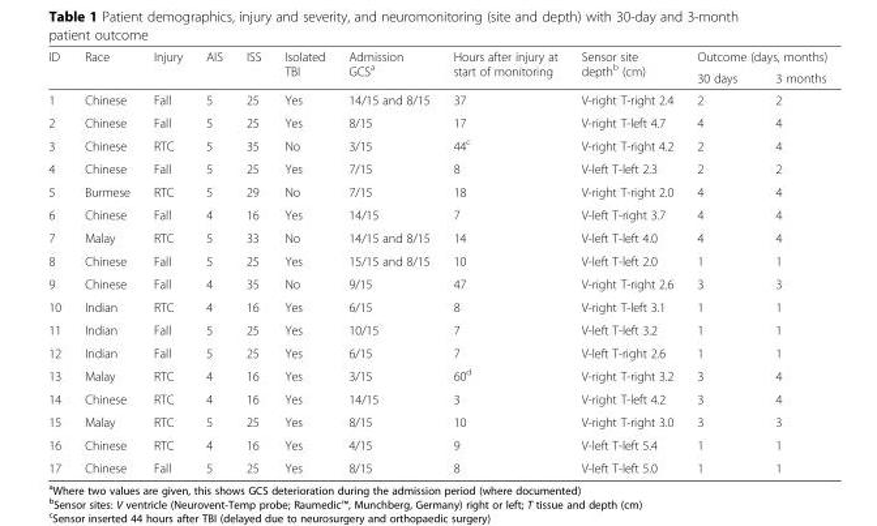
<table><thead><tr><td rowspan="2">ID</td><td rowspan="2">Race</td><td rowspan="2">Injury</td><td rowspan="2">AIS</td><td rowspan="2">ISS</td><td rowspan="2">Isolated TBI</td><td rowspan="2">Admission GCS<sup>a</sup></td><td rowspan="2">Hours after injury at start of monitoring</td><td rowspan="2">Sensor site depth<sup>b</sup> (cm)</td><td colspan="2">Outcome (days, months)</td></tr><tr><td>30 days</td><td>3 months</td></tr></thead><tbody><tr><td>1</td><td>Chinese</td><td>Fall</td><td>5</td><td>25</td><td>Yes</td><td>14/15 and 8/15</td><td>37</td><td>V-right T-right 2.4</td><td>2</td><td>2</td></tr><tr><td>2</td><td>Chinese</td><td>Fall</td><td>5</td><td>25</td><td>Yes</td><td>8/15</td><td>17</td><td>V-right T-left 4.7</td><td>4</td><td>4</td></tr><tr><td>3</td><td>Chinese</td><td>RTC</td><td>5</td><td>35</td><td>No</td><td>3/15</td><td>44<sup>c</sup></td><td>V-right T-right 4.2</td><td>2</td><td>4</td></tr><tr><td>4</td><td>Chinese</td><td>Fall</td><td>5</td><td>25</td><td>Yes</td><td>7/15</td><td>8</td><td>V-left T-left 2.3</td><td>2</td><td>2</td></tr><tr><td>5</td><td>Burmese</td><td>RTC</td><td>5</td><td>29</td><td>No</td><td>7/15</td><td>18</td><td>V-right T-right 2.0</td><td>4</td><td>4</td></tr><tr><td>6</td><td>Chinese</td><td>Fall</td><td>4</td><td>16</td><td>Yes</td><td>14/15</td><td>7</td><td>V-left T-right 3.7</td><td>4</td><td>4</td></tr><tr><td>7</td><td>Malay</td><td>RTC</td><td>5</td><td>33</td><td>No</td><td>14/15 and 8/15</td><td>14</td><td>V-left T-left 4.0</td><td>4</td><td>4</td></tr><tr><td>8</td><td>Chinese</td><td>Fall</td><td>5</td><td>25</td><td>Yes</td><td>15/15 and 8/15</td><td>10</td><td>V-left T-left 2.0</td><td>1</td><td>1</td></tr><tr><td>9</td><td>Chinese</td><td>Fall</td><td>4</td><td>35</td><td>No</td><td>9/15</td><td>47</td><td>V-right T-right 2.6</td><td>3</td><td>3</td></tr><tr><td>10</td><td>Indian</td><td>RTC</td><td>4</td><td>16</td><td>Yes</td><td>6/15</td><td>8</td><td>V-right T-left 3.1</td><td>1</td><td>1</td></tr><tr><td>11</td><td>Indian</td><td>Fall</td><td>5</td><td>25</td><td>Yes</td><td>10/15</td><td>7</td><td>V-left T-left 3.2</td><td>1</td><td>1</td></tr><tr><td>12</td><td>Indian</td><td>Fall</td><td>5</td><td>25</td><td>Yes</td><td>6/15</td><td>7</td><td>V-left T-right 2.6</td><td>1</td><td>1</td></tr><tr><td>13</td><td>Malay</td><td>RTC</td><td>4</td><td>16</td><td>Yes</td><td>3/15</td><td>60<sup>d</sup></td><td>V-right T-right 3.2</td><td>3</td><td>4</td></tr><tr><td>14</td><td>Chinese</td><td>RTC</td><td>4</td><td>16</td><td>Yes</td><td>14/15</td><td>3</td><td>V-right T-left 4.2</td><td>3</td><td>4</td></tr><tr><td>15</td><td>Malay</td><td>RTC</td><td>5</td><td>25</td><td>Yes</td><td>8/15</td><td>10</td><td>V-right T-right 3.0</td><td>3</td><td>3</td></tr><tr><td>16</td><td>Chinese</td><td>RTC</td><td>4</td><td>16</td><td>Yes</td><td>4/15</td><td>9</td><td>V-left T-left 5.4</td><td>1</td><td>1</td></tr><tr><td>17</td><td>Chinese</td><td>Fall</td><td>5</td><td>25</td><td>Yes</td><td>8/15</td><td>8</td><td>V-left T-left 5.0</td><td>1</td><td>1</td></tr></tbody></table>